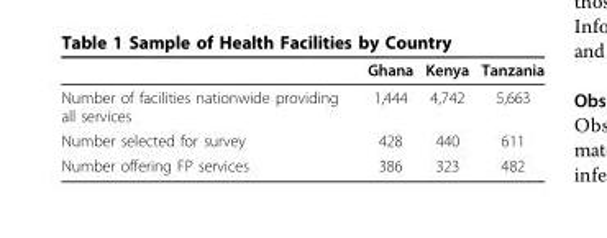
<table><thead><tr><td></td><td>Ghana</td><td>Kenya</td><td>Tanzania</td></tr></thead><tbody><tr><td>Number of facilities nationwide providing all services</td><td>1,444</td><td>4,742</td><td>5,663</td></tr><tr><td>Number selected for survey</td><td>428</td><td>440</td><td>611</td></tr><tr><td>Number offering FP services</td><td>386</td><td>323</td><td>482</td></tr></tbody></table>